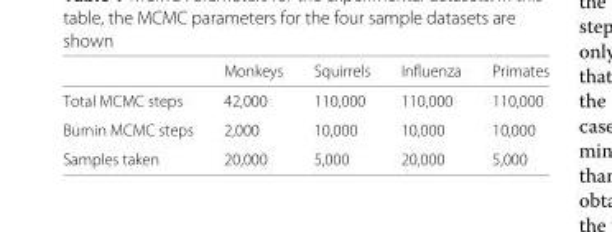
<table><thead><tr><td></td><td>Monkeys</td><td>Squirrels</td><td>Influenza</td><td>Primates</td></tr></thead><tbody><tr><td>Total MCMC steps</td><td>42,000</td><td>110,000</td><td>110,000</td><td>110,000</td></tr><tr><td>Burnin MCMC steps</td><td>2,000</td><td>10,000</td><td>10,000</td><td>10,000</td></tr><tr><td>Samples taken</td><td>20,000</td><td>5,000</td><td>20,000</td><td>5,000</td></tr></tbody></table>